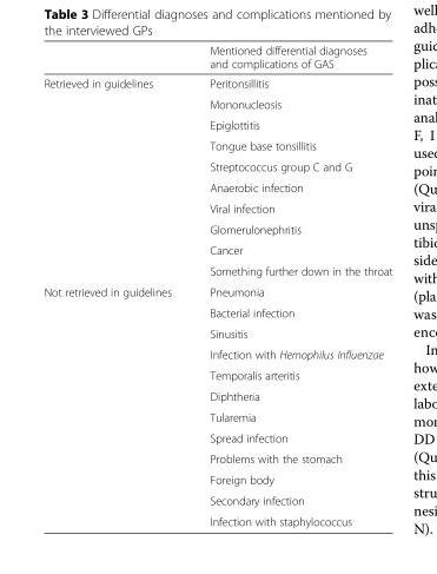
<table><thead><tr><td></td><td>Mentioned differential diagnoses and complications of GAS</td></tr></thead><tbody><tr><td rowspan="10">Retrieved in guidelines</td><td>Peritonsillitis</td></tr><tr><td>Mononucleosis</td></tr><tr><td>Epiglottitis</td></tr><tr><td>Tongue base tonsillitis</td></tr><tr><td>Streptococcus group C and G</td></tr><tr><td>Anaerobic infection</td></tr><tr><td>Viral infection</td></tr><tr><td>Glomerulonephritis</td></tr><tr><td>Cancer</td></tr><tr><td>Something further down in the throat</td></tr><tr><td rowspan="12">Not retrieved in guidelines</td><td>Pneumonia</td></tr><tr><td>Bacterial infection</td></tr><tr><td>Sinusitis</td></tr><tr><td>Infection with Hemophilus Influenzae</td></tr><tr><td>Temporalis arteritis</td></tr><tr><td>Diphtheria</td></tr><tr><td>Tularemia</td></tr><tr><td>Spread infection</td></tr><tr><td>Problems with the stomach</td></tr><tr><td>Foreign body</td></tr><tr><td>Secondary infection</td></tr><tr><td>Infection with staphylococcus</td></tr></tbody></table>